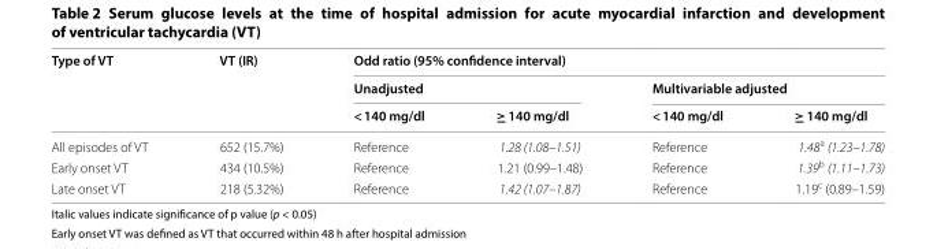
<table><thead><tr><td rowspan="3">Type of VT</td><td rowspan="3">VT (IR)</td><td colspan="4">Odd ratio (95% confidence interval)</td></tr><tr><td colspan="2">Unadjusted</td><td colspan="2">Multivariable adjusted</td></tr><tr><td>&lt; 140 mg/dl</td><td>≥ 140 mg/dl</td><td>&lt; 140 mg/dl</td><td>≥ 140 mg/dl</td></tr></thead><tbody><tr><td>All episodes of VT</td><td>652 (15.7%)</td><td>Reference</td><td>1.28 (1.08–1.51)</td><td>Reference</td><td>1.48<sup>a</sup> (1.23–1.78)</td></tr><tr><td>Early onset VT</td><td>434 (10.5%)</td><td>Reference</td><td>1.21 (0.99–1.48)</td><td>Reference</td><td>1.39<sup>b</sup> (1.11–1.73)</td></tr><tr><td>Late onset VT</td><td>218 (5.32%)</td><td>Reference</td><td>1.42 (1.07–1.87)</td><td>Reference</td><td>1.19<sup>c</sup> (0.89–1.59)</td></tr></tbody></table>